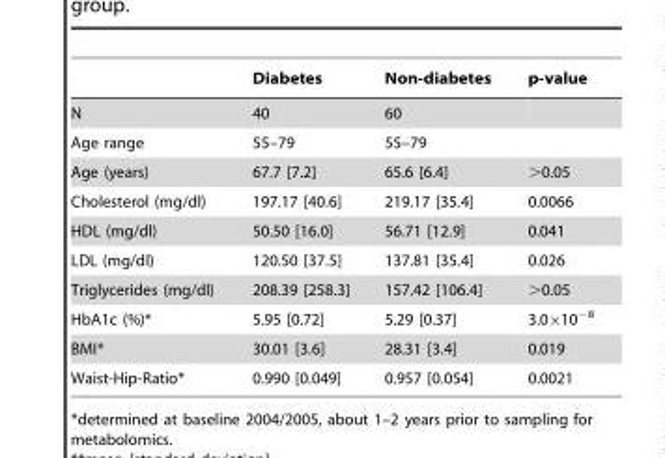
<table><thead><tr><td></td><td>Diabetes</td><td>Non-diabetes</td><td>p-value</td></tr></thead><tbody><tr><td>N</td><td>40</td><td>60</td><td></td></tr><tr><td>Age range</td><td>55–79</td><td>55–79</td><td></td></tr><tr><td>Age (years)</td><td>67.7 [7.2]</td><td>65.6 [6.4]</td><td>&gt;0.05</td></tr><tr><td>Cholesterol (mg/dl)</td><td>197.17 [40.6]</td><td>219.17 [35.4]</td><td>0.0066</td></tr><tr><td>HDL (mg/dl)</td><td>50.50 [16.0]</td><td>56.71 [12.9]</td><td>0.041</td></tr><tr><td>LDL (mg/dl)</td><td>120.50 [37.5]</td><td>137.81 [35.4]</td><td>0.026</td></tr><tr><td>Triglycerides (mg/dl)</td><td>208.39 [258.3]</td><td>157.42 [106.4]</td><td>&gt;0.05</td></tr><tr><td>HbA1c (%)*</td><td>5.95 [0.72]</td><td>5.29 [0.37]</td><td>3.0×10<sup>−8</sup></td></tr><tr><td>BMI*</td><td>30.01 [3.6]</td><td>28.31 [3.4]</td><td>0.019</td></tr><tr><td>Waist-Hip-Ratio*</td><td>0.990 [0.049]</td><td>0.957 [0.054]</td><td>0.0021</td></tr></tbody></table>